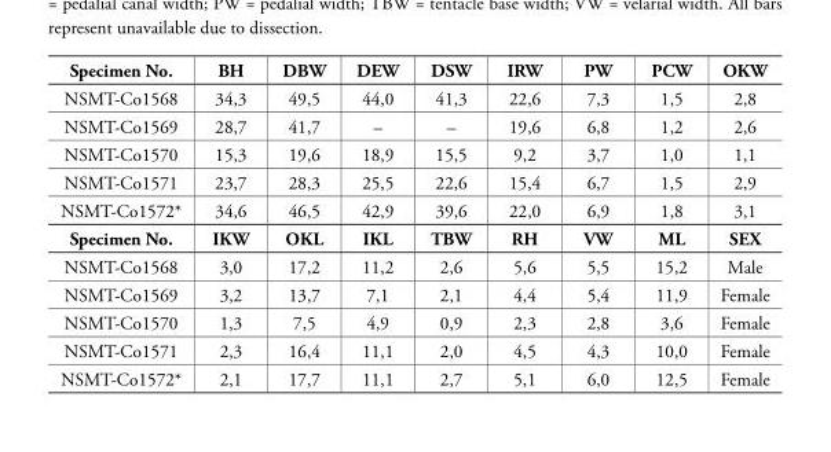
<table><thead><tr><td>Specimen No.</td><td>BH</td><td>DBW</td><td>DEW</td><td>DSW</td><td>IRW</td><td>PW</td><td>PCW</td><td>OKW</td></tr></thead><tbody><tr><td>NSMT-Co1568</td><td>34,3</td><td>49,5</td><td>44,0</td><td>41,3</td><td>22,6</td><td>7,3</td><td>1,5</td><td>2,8</td></tr><tr><td>NSMT-Co1569</td><td>28,7</td><td>41,7</td><td>–</td><td>–</td><td>19,6</td><td>6,8</td><td>1,2</td><td>2,6</td></tr><tr><td>NSMT-Co1570</td><td>15,3</td><td>19,6</td><td>18,9</td><td>15,5</td><td>9,2</td><td>3,7</td><td>1,0</td><td>1,1</td></tr><tr><td>NSMT-Co1571</td><td>23,7</td><td>28,3</td><td>25,5</td><td>22,6</td><td>15,4</td><td>6,7</td><td>1,5</td><td>2,9</td></tr><tr><td>NSMT-Co1572*</td><td>34,6</td><td>46,5</td><td>42,9</td><td>39,6</td><td>22,0</td><td>6,9</td><td>1,8</td><td>3,1</td></tr><tr><td>Specimen No.</td><td>IKW</td><td>OKL</td><td>IKL</td><td>TBW</td><td>RH</td><td>VW</td><td>ML</td><td>SEX</td></tr><tr><td>NSMT-Co1568</td><td>3,0</td><td>17,2</td><td>11,2</td><td>2,6</td><td>5,6</td><td>5,5</td><td>15,2</td><td>Male</td></tr><tr><td>NSMT-Co1569</td><td>3,2</td><td>13,7</td><td>7,1</td><td>2,1</td><td>4,4</td><td>5,4</td><td>11,9</td><td>Female</td></tr><tr><td>NSMT-Co1570</td><td>1,3</td><td>7,5</td><td>4,9</td><td>0,9</td><td>2,3</td><td>2,8</td><td>3,6</td><td>Female</td></tr><tr><td>NSMT-Co1571</td><td>2,3</td><td>16,4</td><td>11,1</td><td>2,0</td><td>4,5</td><td>4,3</td><td>10,0</td><td>Female</td></tr><tr><td>NSMT-Co1572*</td><td>2,1</td><td>17,7</td><td>11,1</td><td>2,7</td><td>5,1</td><td>6,0</td><td>12,5</td><td>Female</td></tr></tbody></table>